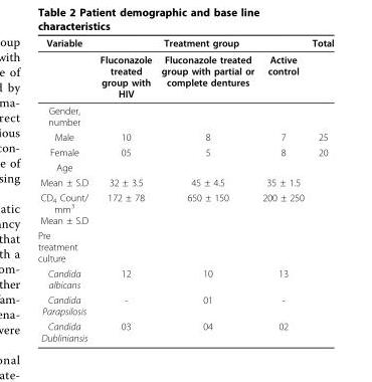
<table><thead><tr><td rowspan="2">Variable</td><td colspan="3">Treatment group</td><td rowspan="2">Total</td></tr><tr><td>Fluconazole treated group with HIV</td><td>Fluconazole treated group with partial or complete dentures</td><td>Active control</td></tr></thead><tbody><tr><td colspan="5">Gender, number</td></tr><tr><td>Male</td><td>10</td><td>8</td><td>7</td><td>25</td></tr><tr><td>Female</td><td>05</td><td>5</td><td>8</td><td>20</td></tr><tr><td colspan="5">Age</td></tr><tr><td>Mean ± S.D</td><td>32 ± 3.5</td><td>45 ± 4.5</td><td>35 ± 1.5</td><td></td></tr><tr><td>CD<sub>4</sub> Count/ mm<sup>3</sup> Mean ± S.D</td><td>172 ± 78</td><td>650 ± 150</td><td>200 ± 250</td><td></td></tr><tr><td colspan="5">Pre treatment culture</td></tr><tr><td>Candida albicans</td><td>12</td><td>10</td><td>13</td><td></td></tr><tr><td>Candida Parapsilosis</td><td>-</td><td>01</td><td>-</td><td></td></tr><tr><td>Candida Dubliniansis</td><td>03</td><td>04</td><td>02</td><td></td></tr></tbody></table>